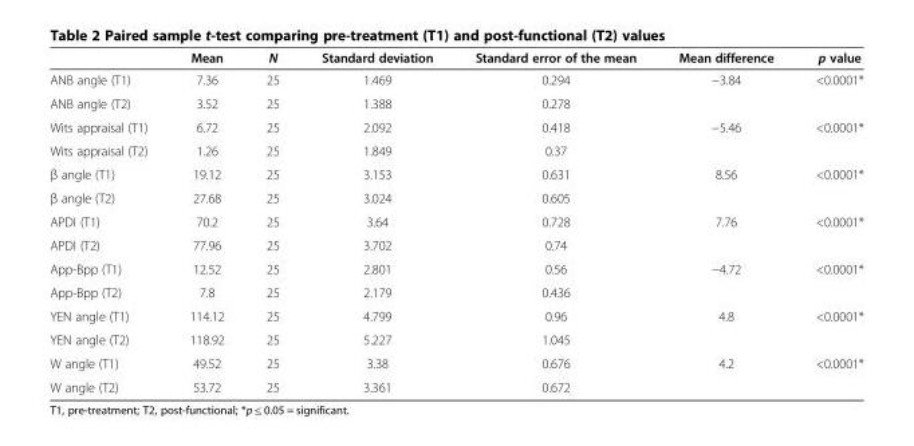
<table><thead><tr><td></td><td>Mean</td><td>N</td><td>Standard deviation</td><td>Standard error of the mean</td><td>Mean difference</td><td>p value</td></tr></thead><tbody><tr><td>ANB angle (T1)</td><td>7.36</td><td>25</td><td>1.469</td><td>0.294</td><td rowspan="2">−3.84</td><td rowspan="2">&lt;0.0001*</td></tr><tr><td>ANB angle (T2)</td><td>3.52</td><td>25</td><td>1.388</td><td>0.278</td></tr><tr><td>Wits appraisal (T1)</td><td>6.72</td><td>25</td><td>2.092</td><td>0.418</td><td rowspan="2">−5.46</td><td rowspan="2">&lt;0.0001*</td></tr><tr><td>Wits appraisal (T2)</td><td>1.26</td><td>25</td><td>1.849</td><td>0.37</td></tr><tr><td>β angle (T1)</td><td>19.12</td><td>25</td><td>3.153</td><td>0.631</td><td rowspan="2">8.56</td><td rowspan="2">&lt;0.0001*</td></tr><tr><td>β angle (T2)</td><td>27.68</td><td>25</td><td>3.024</td><td>0.605</td></tr><tr><td>APDI (T1)</td><td>70.2</td><td>25</td><td>3.64</td><td>0.728</td><td rowspan="2">7.76</td><td rowspan="2">&lt;0.0001*</td></tr><tr><td>APDI (T2)</td><td>77.96</td><td>25</td><td>3.702</td><td>0.74</td></tr><tr><td>App-Bpp (T1)</td><td>12.52</td><td>25</td><td>2.801</td><td>0.56</td><td rowspan="2">−4.72</td><td rowspan="2">&lt;0.0001*</td></tr><tr><td>App-Bpp (T2)</td><td>7.8</td><td>25</td><td>2.179</td><td>0.436</td></tr><tr><td>YEN angle (T1)</td><td>114.12</td><td>25</td><td>4.799</td><td>0.96</td><td rowspan="2">4.8</td><td rowspan="2">&lt;0.0001*</td></tr><tr><td>YEN angle (T2)</td><td>118.92</td><td>25</td><td>5.227</td><td>1.045</td></tr><tr><td>W angle (T1)</td><td>49.52</td><td>25</td><td>3.38</td><td>0.676</td><td rowspan="2">4.2</td><td rowspan="2">&lt;0.0001*</td></tr><tr><td>W angle (T2)</td><td>53.72</td><td>25</td><td>3.361</td><td>0.672</td></tr></tbody></table>